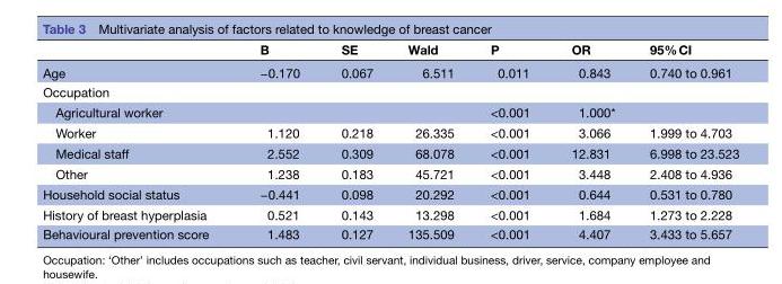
<table><thead><tr><td></td><td>B</td><td>SE</td><td>Wald</td><td>P</td><td>OR</td><td>95% CI</td></tr></thead><tbody><tr><td>Age</td><td>−0.170</td><td>0.067</td><td>6.511</td><td>0.011</td><td>0.843</td><td>0.740 to 0.961</td></tr><tr><td colspan="7">Occupation</td></tr><tr><td>Agricultural worker</td><td></td><td></td><td></td><td>&lt;0.001</td><td>1.000*</td><td></td></tr><tr><td>Worker</td><td>1.120</td><td>0.218</td><td>26.335</td><td>&lt;0.001</td><td>3.066</td><td>1.999 to 4.703</td></tr><tr><td>Medical staff</td><td>2.552</td><td>0.309</td><td>68.078</td><td>&lt;0.001</td><td>12.831</td><td>6.998 to 23.523</td></tr><tr><td>Other</td><td>1.238</td><td>0.183</td><td>45.721</td><td>&lt;0.001</td><td>3.448</td><td>2.408 to 4.936</td></tr><tr><td>Household social status</td><td>−0.441</td><td>0.098</td><td>20.292</td><td>&lt;0.001</td><td>0.644</td><td>0.531 to 0.780</td></tr><tr><td>History of breast hyperplasia</td><td>0.521</td><td>0.143</td><td>13.298</td><td>&lt;0.001</td><td>1.684</td><td>1.273 to 2.228</td></tr><tr><td>Behavioural prevention score</td><td>1.483</td><td>0.127</td><td>135.509</td><td>&lt;0.001</td><td>4.407</td><td>3.433 to 5.657</td></tr></tbody></table>